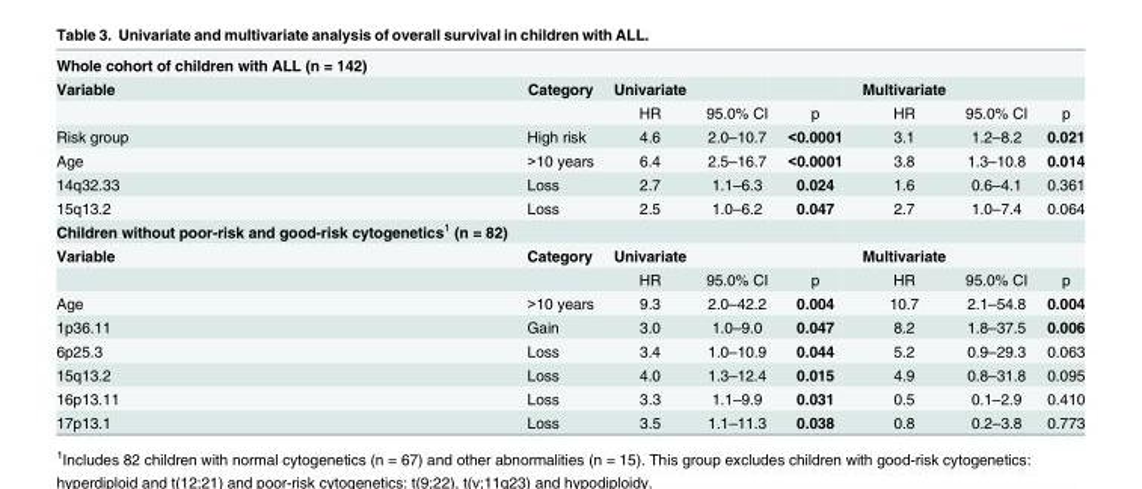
<table><tbody><tr><td colspan="8">Whole cohort of children with ALL (n = 142)</td></tr><tr><td rowspan="2">Variable</td><td>Category</td><td>Univariate</td><td></td><td></td><td>Multivariate</td><td></td><td></td></tr><tr><td></td><td>HR</td><td>95.0% CI</td><td>p</td><td>HR</td><td>95.0% CI</td><td>p</td></tr><tr><td>Risk group</td><td>High risk</td><td>4.6</td><td>2.0–10.7</td><td>&lt;0.0001</td><td>3.1</td><td>1.2–8.2</td><td>0.021</td></tr><tr><td>Age</td><td>&gt;10 years</td><td>6.4</td><td>2.5–16.7</td><td>&lt;0.0001</td><td>3.8</td><td>1.3–10.8</td><td>0.014</td></tr><tr><td>14q32.33</td><td>Loss</td><td>2.7</td><td>1.1–6.3</td><td>0.024</td><td>1.6</td><td>0.6–4.1</td><td>0.361</td></tr><tr><td>15q13.2</td><td>Loss</td><td>2.5</td><td>1.0–6.2</td><td>0.047</td><td>2.7</td><td>1.0–7.4</td><td>0.064</td></tr><tr><td colspan="8">Children without poor-risk and good-risk cytogenetics<sup>1</sup> (n = 82)</td></tr><tr><td rowspan="2">Variable</td><td>Category</td><td>Univariate</td><td></td><td></td><td>Multivariate</td><td></td><td></td></tr><tr><td></td><td>HR</td><td>95.0% CI</td><td>p</td><td>HR</td><td>95.0% CI</td><td>p</td></tr><tr><td>Age</td><td>&gt;10 years</td><td>9.3</td><td>2.0–42.2</td><td>0.004</td><td>10.7</td><td>2.1–54.8</td><td>0.004</td></tr><tr><td>1p36.11</td><td>Gain</td><td>3.0</td><td>1.0–9.0</td><td>0.047</td><td>8.2</td><td>1.8–37.5</td><td>0.006</td></tr><tr><td>6p25.3</td><td>Loss</td><td>3.4</td><td>1.0–10.9</td><td>0.044</td><td>5.2</td><td>0.9–29.3</td><td>0.063</td></tr><tr><td>15q13.2</td><td>Loss</td><td>4.0</td><td>1.3–12.4</td><td>0.015</td><td>4.9</td><td>0.8–31.8</td><td>0.095</td></tr><tr><td>16p13.11</td><td>Loss</td><td>3.3</td><td>1.1–9.9</td><td>0.031</td><td>0.5</td><td>0.1–2.9</td><td>0.410</td></tr><tr><td>17p13.1</td><td>Loss</td><td>3.5</td><td>1.1–11.3</td><td>0.038</td><td>0.8</td><td>0.2–3.8</td><td>0.773</td></tr></tbody></table>